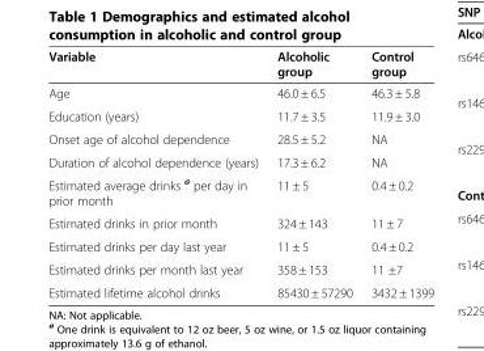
<table><thead><tr><td>Variable</td><td>Alcoholic group</td><td>Control group</td></tr></thead><tbody><tr><td>Age</td><td>46.0 ± 6.5</td><td>46.3 ± 5.8</td></tr><tr><td>Education (years)</td><td>11.7 ± 3.5</td><td>11.9 ± 3.0</td></tr><tr><td>Onset age of alcohol dependence</td><td>28.5 ± 5.2</td><td>NA</td></tr><tr><td>Duration of alcohol dependence (years)</td><td>17.3 ± 6.2</td><td>NA</td></tr><tr><td>Estimated average drinks <sup>a</sup> per day in prior month</td><td>11 ± 5</td><td>0.4 ± 0.2</td></tr><tr><td>Estimated drinks in prior month</td><td>324 ± 143</td><td>11 ± 7</td></tr><tr><td>Estimated drinks per day last year</td><td>11 ± 5</td><td>0.4 ± 0.2</td></tr><tr><td>Estimated drinks per month last year</td><td>358 ± 153</td><td>11 ±7</td></tr><tr><td>Estimated lifetime alcohol drinks</td><td>85430 ± 57290</td><td>3432 ± 1399</td></tr></tbody></table>